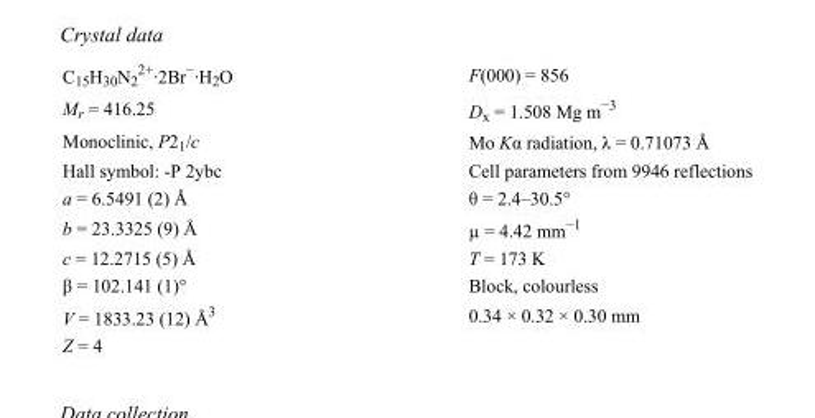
<table><tbody><tr><td>C<sub>15</sub>H<sub>30</sub>N<sub>2</sub> <sup>2+</sup>·2Br<sup>−</sup>·H<sub>2</sub>O</td><td>F(000) = 856</td></tr><tr><td>M<sub>r</sub> = 416.25</td><td>D<sub>x</sub> = 1.508 Mg m<sup>−3</sup></td></tr><tr><td>Monoclinic, P2<sub>1</sub>/c</td><td>Mo Kα radiation, λ = 0.71073 Å</td></tr><tr><td>Hall symbol: -P 2ybc</td><td>Cell parameters from 9946 reflections</td></tr><tr><td>a = 6.5491 (2) Å</td><td>θ = 2.4–30.5°</td></tr><tr><td>b = 23.3325 (9) Å</td><td>µ = 4.42 mm<sup>−1</sup></td></tr><tr><td>c = 12.2715 (5) Å</td><td>T = 173 K</td></tr><tr><td>β = 102.141 (1)°</td><td>Block, colourless</td></tr><tr><td>V = 1833.23 (12) Å<sup>3</sup></td><td>0.34 × 0.32 × 0.30 mm</td></tr><tr><td>Z = 4</td><td></td></tr></tbody></table>